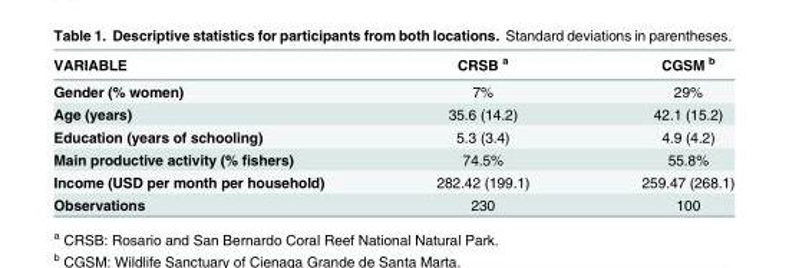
<table><thead><tr><td>VARIABLE</td><td>CRSB <sup>a</sup></td><td>CGSM <sup>b</sup></td></tr></thead><tbody><tr><td>Gender (% women)</td><td>7%</td><td>29%</td></tr><tr><td>Age (years)</td><td>35.6 (14.2)</td><td>42.1 (15.2)</td></tr><tr><td>Education (years of schooling)</td><td>5.3 (3.4)</td><td>4.9 (4.2)</td></tr><tr><td>Main productive activity (% fishers)</td><td>74.5%</td><td>55.8%</td></tr><tr><td>Income (USD per month per household)</td><td>282.42 (199.1)</td><td>259.47 (268.1)</td></tr><tr><td>Observations</td><td>230</td><td>100</td></tr></tbody></table>